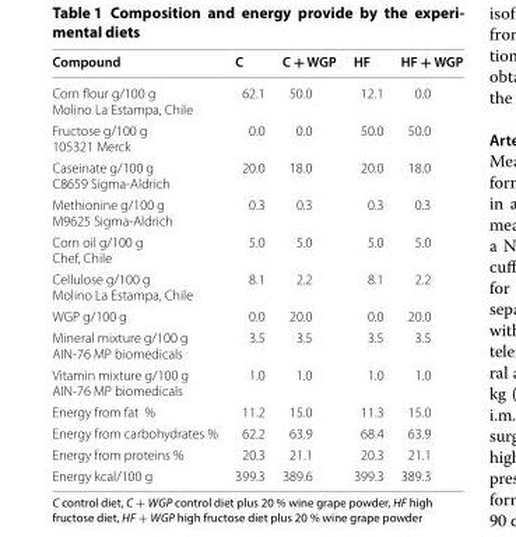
<table><thead><tr><td>Compound</td><td>C</td><td>C + WGP</td><td>HF</td><td>HF + WGP</td></tr></thead><tbody><tr><td>Corn flour g/100 g Molino La Estampa, Chile</td><td>62.1</td><td>50.0</td><td>12.1</td><td>0.0</td></tr><tr><td>Fructose g/100 g 105321 Merck</td><td>0.0</td><td>0.0</td><td>50.0</td><td>50.0</td></tr><tr><td>Caseinate g/100 g C8659 Sigma‑Aldrich</td><td>20.0</td><td>18.0</td><td>20.0</td><td>18.0</td></tr><tr><td>Methionine g/100 g M9625 Sigma‑Aldrich</td><td>0.3</td><td>0.3</td><td>0.3</td><td>0.3</td></tr><tr><td>Corn oil g/100 g Chef, Chile</td><td>5.0</td><td>5.0</td><td>5.0</td><td>5.0</td></tr><tr><td>Cellulose g/100 g Molino La Estampa, Chile</td><td>8.1</td><td>2.2</td><td>8.1</td><td>2.2</td></tr><tr><td>WGP g/100 g</td><td>0.0</td><td>20.0</td><td>0.0</td><td>20.0</td></tr><tr><td>Mineral mixture g/100 g AIN‑76 MP biomedicals</td><td>3.5</td><td>3.5</td><td>3.5</td><td>3.5</td></tr><tr><td>Vitamin mixture g/100 g AIN‑76 MP biomedicals</td><td>1.0</td><td>1.0</td><td>1.0</td><td>1.0</td></tr><tr><td>Energy from fat %</td><td>11.2</td><td>15.0</td><td>11.3</td><td>15.0</td></tr><tr><td>Energy from carbohydrates %</td><td>62.2</td><td>63.9</td><td>68.4</td><td>63.9</td></tr><tr><td>Energy from proteins %</td><td>20.3</td><td>21.1</td><td>20.3</td><td>21.1</td></tr><tr><td>Energy kcal/100 g</td><td>399.3</td><td>389.6</td><td>399.3</td><td>389.3</td></tr></tbody></table>